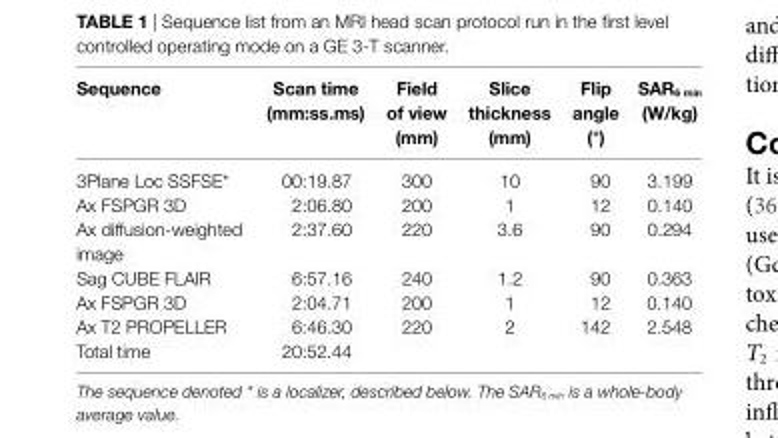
<table><thead><tr><td>sequence</td><td>scan time (mm:ss.ms)</td><td>Field of view (mm)</td><td>slice thickness (mm)</td><td>Flip angle (°)</td><td>sAr<sub>6 min</sub> (W/kg)</td></tr></thead><tbody><tr><td>3Plane Loc SSFSE*</td><td>00:19.87</td><td>300</td><td>10</td><td>90</td><td>3.199</td></tr><tr><td>Ax FSPGR 3D</td><td>2:06.80</td><td>200</td><td>1</td><td>12</td><td>0.140</td></tr><tr><td>Ax diffusion-weighted image</td><td>2:37.60</td><td>220</td><td>3.6</td><td>90</td><td>0.294</td></tr><tr><td>Sag CUBE FLAIR</td><td>6:57.16</td><td>240</td><td>1.2</td><td>90</td><td>0.363</td></tr><tr><td>Ax FSPGR 3D</td><td>2:04.71</td><td>200</td><td>1</td><td>12</td><td>0.140</td></tr><tr><td>Ax T2 PROPELLER</td><td>6:46.30</td><td>220</td><td>2</td><td>142</td><td>2.548</td></tr><tr><td>Total time</td><td>20:52.44</td><td></td><td></td><td></td><td></td></tr></tbody></table>